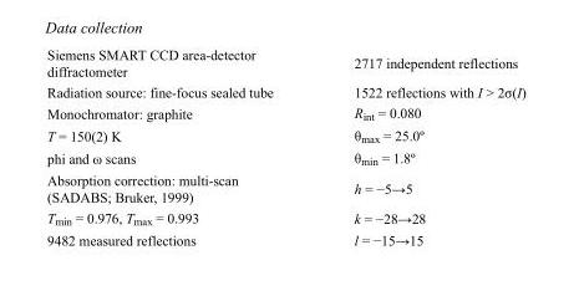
<table><tbody><tr><td>Siemens SMART CCD area-detector diffractometer</td><td>2717 independent reflections</td></tr><tr><td>Radiation source: fine-focus sealed tube</td><td>1522 reflections with I &gt; 2σ(I)</td></tr><tr><td>Monochromator: graphite</td><td>R<sub>int</sub> = 0.080</td></tr><tr><td>T = 150(2) K</td><td>θ<sub>max</sub> = 25.0º</td></tr><tr><td>phi and ω scans</td><td>θ<sub>min</sub> = 1.8º</td></tr><tr><td>Absorption correction: multi-scan (SADABS; Bruker, 1999)</td><td>h = −5→5</td></tr><tr><td>T<sub>min</sub> = 0.976, T<sub>max</sub> = 0.993</td><td>k = −28→28</td></tr><tr><td>9482 measured reflections</td><td>l = −15→15</td></tr></tbody></table>